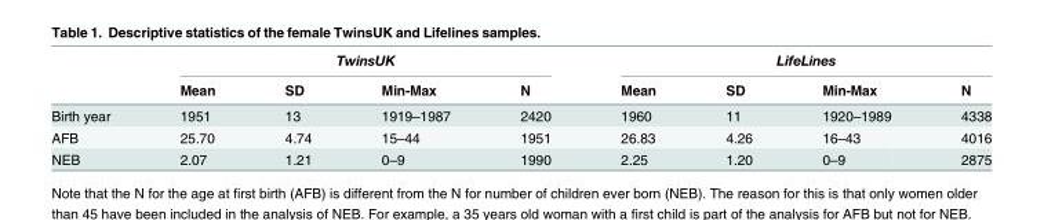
<table><thead><tr><td rowspan="2"></td><td colspan="4">TwinsUK</td><td colspan="4">LifeLines</td></tr><tr><td>Mean</td><td>SD</td><td>Min-Max</td><td>N</td><td>Mean</td><td>SD</td><td>Min-Max</td><td>N</td></tr></thead><tbody><tr><td>Birth year</td><td>1951</td><td>13</td><td>1919–1987</td><td>2420</td><td>1960</td><td>11</td><td>1920–1989</td><td>4338</td></tr><tr><td>AFB</td><td>25.70</td><td>4.74</td><td>15–44</td><td>1951</td><td>26.83</td><td>4.26</td><td>16–43</td><td>4016</td></tr><tr><td>NEB</td><td>2.07</td><td>1.21</td><td>0–9</td><td>1990</td><td>2.25</td><td>1.20</td><td>0–9</td><td>2875</td></tr></tbody></table>